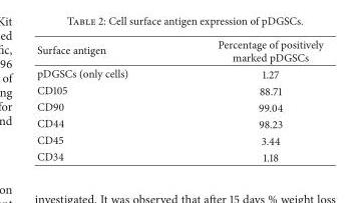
<table><thead><tr><td>Surface antigen</td><td>Percentage of positively marked pDGSCs</td></tr></thead><tbody><tr><td>pDGSCs (only cells)</td><td>1.27</td></tr><tr><td>CD105</td><td>88.71</td></tr><tr><td>CD90</td><td>99.04</td></tr><tr><td>CD44</td><td>98.23</td></tr><tr><td>CD45</td><td>3.44</td></tr><tr><td>CD34</td><td>1.18</td></tr></tbody></table>